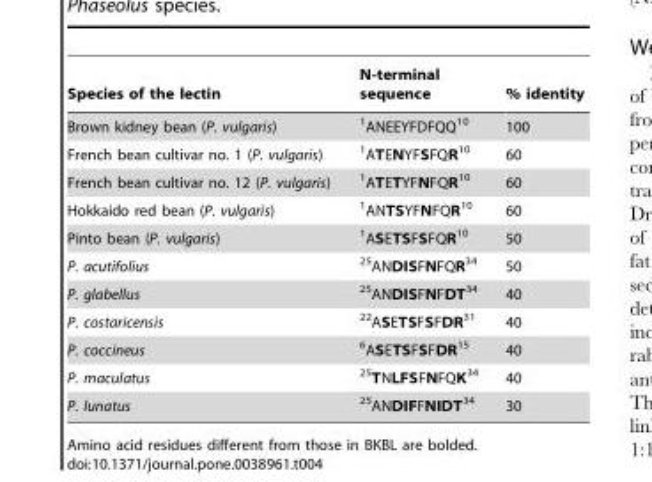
<table><thead><tr><td>Species of the lectin</td><td>N-terminal sequence</td><td>% identity</td></tr></thead><tbody><tr><td>Brown kidney bean (P. vulgaris)</td><td><sup>1</sup>ANEEYFDFQQ<sup>10</sup></td><td>100</td></tr><tr><td>French bean cultivar no. 1 (P. vulgaris)</td><td><sup>1</sup>ATENYFSFQR<sup>10</sup></td><td>60</td></tr><tr><td>French bean cultivar no. 12 (P. vulgaris)</td><td><sup>1</sup>ATETYFNFQR<sup>10</sup></td><td>60</td></tr><tr><td>Hokkaido red bean (P. vulgaris)</td><td><sup>1</sup>ANTSYFNFQR<sup>10</sup></td><td>60</td></tr><tr><td>Pinto bean (P. vulgaris)</td><td><sup>1</sup>ASETSFSFQR<sup>10</sup></td><td>50</td></tr><tr><td>P. acutifolius</td><td><sup>25</sup>ANDISFNFQR<sup>34</sup></td><td>50</td></tr><tr><td>P. glabellus</td><td><sup>25</sup>ANDISFNFDT<sup>34</sup></td><td>40</td></tr><tr><td>P. costaricensis</td><td><sup>22</sup>ASETSFSFDR<sup>31</sup></td><td>40</td></tr><tr><td>P. coccineus</td><td><sup>6</sup>ASETSFSFDR<sup>15</sup></td><td>40</td></tr><tr><td>P. maculatus</td><td><sup>25</sup>TNLFSFNFQK<sup>34</sup></td><td>40</td></tr><tr><td>P. lunatus</td><td><sup>25</sup>ANDIFFNIDT<sup>34</sup></td><td>30</td></tr></tbody></table>